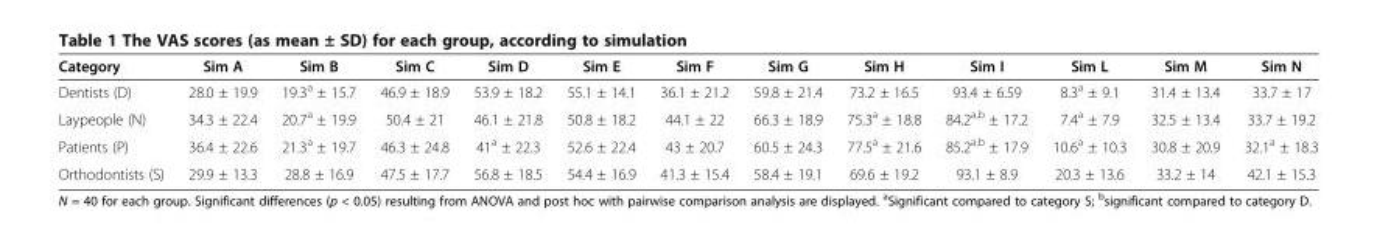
<table><thead><tr><td>Category</td><td>Sim A</td><td>Sim B</td><td>Sim C</td><td>Sim D</td><td>Sim E</td><td>Sim F</td><td>Sim G</td><td>Sim H</td><td>Sim I</td><td>Sim L</td><td>Sim M</td><td>Sim N</td></tr></thead><tbody><tr><td>Dentists (D)</td><td>28.0 ± 19.9</td><td>19.3<sup>a</sup> ± 15.7</td><td>46.9 ± 18.9</td><td>53.9 ± 18.2</td><td>55.1 ± 14.1</td><td>36.1 ± 21.2</td><td>59.8 ± 21.4</td><td>73.2 ± 16.5</td><td>93.4 ± 6.59</td><td>8.3<sup>a</sup> ± 9.1</td><td>31.4 ± 13.4</td><td>33.7 ± 17</td></tr><tr><td>Laypeople (N)</td><td>34.3 ± 22.4</td><td>20.7<sup>a</sup> ± 19.9</td><td>50.4 ± 21</td><td>46.1 ± 21.8</td><td>50.8 ± 18.2</td><td>44.1 ± 22</td><td>66.3 ± 18.9</td><td>75.3<sup>a</sup> ± 18.8</td><td>84.2<sup>a,b</sup> ± 17.2</td><td>7.4<sup>a</sup> ± 7.9</td><td>32.5 ± 13.4</td><td>33.7 ± 19.2</td></tr><tr><td>Patients (P)</td><td>36.4 ± 22.6</td><td>21.3<sup>a</sup> ± 19.7</td><td>46.3 ± 24.8</td><td>41<sup>a</sup> ± 22.3</td><td>52.6 ± 22.4</td><td>43 ± 20.7</td><td>60.5 ± 24.3</td><td>77.5<sup>a</sup> ± 21.6</td><td>85.2<sup>a,b</sup> ± 17.9</td><td>10.6<sup>a</sup> ± 10.3</td><td>30.8 ± 20.9</td><td>32.1<sup>a</sup> ± 18.3</td></tr><tr><td>Orthodontists (S)</td><td>29.9 ± 13.3</td><td>28.8 ± 16.9</td><td>47.5 ± 17.7</td><td>56.8 ± 18.5</td><td>54.4 ± 16.9</td><td>41.3 ± 15.4</td><td>58.4 ± 19.1</td><td>69.6 ± 19.2</td><td>93.1 ± 8.9</td><td>20.3 ± 13.6</td><td>33.2 ± 14</td><td>42.1 ± 15.3</td></tr></tbody></table>